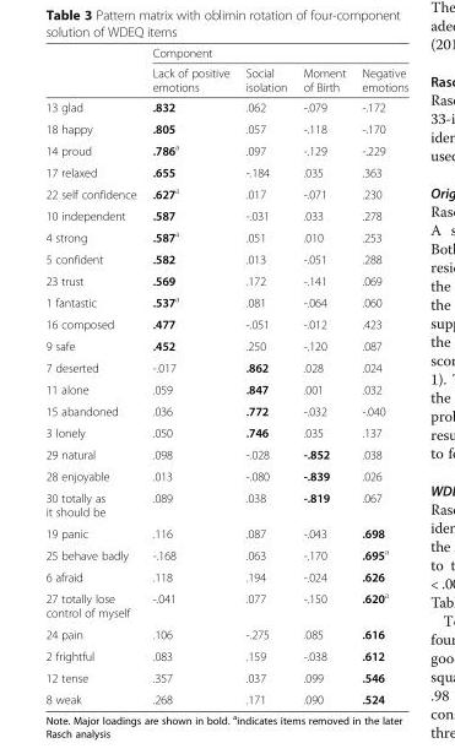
<table><thead><tr><td rowspan="2"></td><td colspan="4">Component</td></tr><tr><td>Lack of positive emotions</td><td>Social isolation</td><td>Moment of Birth</td><td>Negative emotions</td></tr></thead><tbody><tr><td>13 glad</td><td>.832</td><td>.062</td><td>-.079</td><td>-.172</td></tr><tr><td>18 happy</td><td>.805</td><td>.057</td><td>-.118</td><td>-.170</td></tr><tr><td>14 proud</td><td>.786<sup>a</sup></td><td>.097</td><td>-.129</td><td>-.229</td></tr><tr><td>17 relaxed</td><td>.655</td><td>-.184</td><td>.035</td><td>.363</td></tr><tr><td>22 self confidence</td><td>.627<sup>a</sup></td><td>.017</td><td>-.071</td><td>.230</td></tr><tr><td>10 independent</td><td>.587</td><td>-.031</td><td>.033</td><td>.278</td></tr><tr><td>4 strong</td><td>.587<sup>a</sup></td><td>.051</td><td>.010</td><td>.253</td></tr><tr><td>5 confident</td><td>.582</td><td>.013</td><td>-.051</td><td>.288</td></tr><tr><td>23 trust</td><td>.569</td><td>.172</td><td>-.141</td><td>.069</td></tr><tr><td>1 fantastic</td><td>.537<sup>a</sup></td><td>.081</td><td>-.064</td><td>.060</td></tr><tr><td>16 composed</td><td>.477</td><td>-.051</td><td>-.012</td><td>.423</td></tr><tr><td>9 safe</td><td>.452</td><td>.250</td><td>-.120</td><td>.087</td></tr><tr><td>7 deserted</td><td>-.017</td><td>.862</td><td>.028</td><td>.024</td></tr><tr><td>11 alone</td><td>.059</td><td>.847</td><td>.001</td><td>.032</td></tr><tr><td>15 abandoned</td><td>.036</td><td>.772</td><td>-.032</td><td>-.040</td></tr><tr><td>3 lonely</td><td>.050</td><td>.746</td><td>.035</td><td>.137</td></tr><tr><td>29 natural</td><td>.098</td><td>-.028</td><td>-.852</td><td>.038</td></tr><tr><td>28 enjoyable</td><td>.013</td><td>-.080</td><td>-.839</td><td>.026</td></tr><tr><td>30 totally as it should be</td><td>.089</td><td>.038</td><td>-.819</td><td>.067</td></tr><tr><td>19 panic</td><td>.116</td><td>.087</td><td>-.043</td><td>.698</td></tr><tr><td>25 behave badly</td><td>-.168</td><td>.063</td><td>-.170</td><td>.695<sup>a</sup></td></tr><tr><td>6 afraid</td><td>.118</td><td>.194</td><td>-.024</td><td>.626</td></tr><tr><td>27 totally lose control of myself</td><td>-.041</td><td>.077</td><td>-.150</td><td>.620<sup>a</sup></td></tr><tr><td>24 pain</td><td>.106</td><td>-.275</td><td>.085</td><td>.616</td></tr><tr><td>2 frightful</td><td>.083</td><td>.159</td><td>-.038</td><td>.612</td></tr><tr><td>12 tense</td><td>.357</td><td>.037</td><td>.099</td><td>.546</td></tr><tr><td>8 weak</td><td>.268</td><td>.171</td><td>.090</td><td>.524</td></tr></tbody></table>